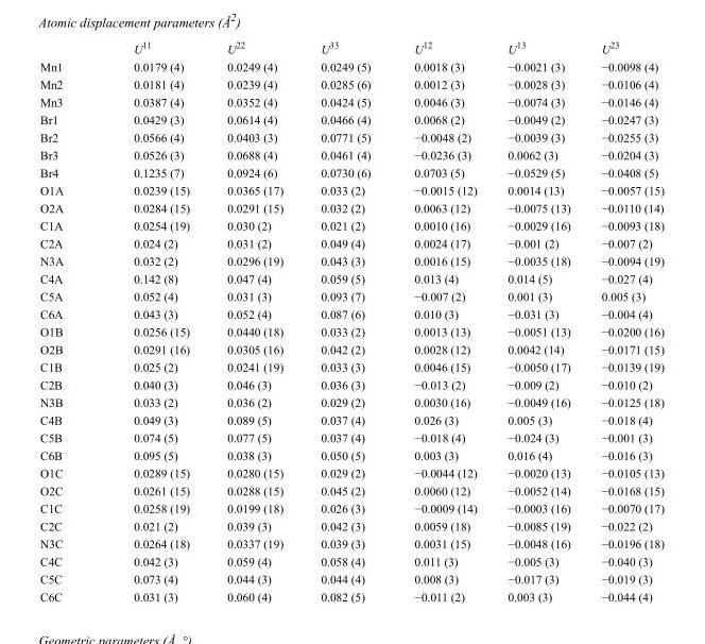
<table><thead><tr><td></td><td>U<sup>11</sup></td><td>U<sup>22</sup></td><td>U<sup>33</sup></td><td>U<sup>12</sup></td><td>U<sup>13</sup></td><td>U<sup>23</sup></td></tr></thead><tbody><tr><td>Mn1</td><td>0.0179 (4)</td><td>0.0249 (4)</td><td>0.0249 (5)</td><td>0.0018 (3)</td><td>−0.0021 (3)</td><td>−0.0098 (4)</td></tr><tr><td>Mn2</td><td>0.0181 (4)</td><td>0.0239 (4)</td><td>0.0285 (6)</td><td>0.0012 (3)</td><td>−0.0028 (3)</td><td>−0.0106 (4)</td></tr><tr><td>Mn3</td><td>0.0387 (4)</td><td>0.0352 (4)</td><td>0.0424 (5)</td><td>0.0046 (3)</td><td>−0.0074 (3)</td><td>−0.0146 (4)</td></tr><tr><td>Br1</td><td>0.0429 (3)</td><td>0.0614 (4)</td><td>0.0466 (4)</td><td>0.0068 (2)</td><td>−0.0049 (2)</td><td>−0.0247 (3)</td></tr><tr><td>Br2</td><td>0.0566 (4)</td><td>0.0403 (3)</td><td>0.0771 (5)</td><td>−0.0048 (2)</td><td>−0.0039 (3)</td><td>−0.0255 (3)</td></tr><tr><td>Br3</td><td>0.0526 (3)</td><td>0.0688 (4)</td><td>0.0461 (4)</td><td>−0.0236 (3)</td><td>0.0062 (3)</td><td>−0.0204 (3)</td></tr><tr><td>Br4</td><td>0.1235 (7)</td><td>0.0924 (6)</td><td>0.0730 (6)</td><td>0.0703 (5)</td><td>−0.0529 (5)</td><td>−0.0408 (5)</td></tr><tr><td>O1A</td><td>0.0239 (15)</td><td>0.0365 (17)</td><td>0.033 (2)</td><td>−0.0015 (12)</td><td>0.0014 (13)</td><td>−0.0057 (15)</td></tr><tr><td>O2A</td><td>0.0284 (15)</td><td>0.0291 (15)</td><td>0.032 (2)</td><td>0.0063 (12)</td><td>−0.0075 (13)</td><td>−0.0110 (14)</td></tr><tr><td>C1A</td><td>0.0254 (19)</td><td>0.030 (2)</td><td>0.021 (2)</td><td>0.0010 (16)</td><td>−0.0029 (16)</td><td>−0.0093 (18)</td></tr><tr><td>C2A</td><td>0.024 (2)</td><td>0.031 (2)</td><td>0.049 (4)</td><td>0.0024 (17)</td><td>−0.001 (2)</td><td>−0.007 (2)</td></tr><tr><td>N3A</td><td>0.032 (2)</td><td>0.0296 (19)</td><td>0.043 (3)</td><td>0.0016 (15)</td><td>−0.0035 (18)</td><td>−0.0094 (19)</td></tr><tr><td>C4A</td><td>0.142 (8)</td><td>0.047 (4)</td><td>0.059 (5)</td><td>0.013 (4)</td><td>0.014 (5)</td><td>−0.027 (4)</td></tr><tr><td>C5A</td><td>0.052 (4)</td><td>0.031 (3)</td><td>0.093 (7)</td><td>−0.007 (2)</td><td>0.001 (3)</td><td>0.005 (3)</td></tr><tr><td>C6A</td><td>0.043 (3)</td><td>0.052 (4)</td><td>0.087 (6)</td><td>0.010 (3)</td><td>−0.031 (3)</td><td>−0.004 (4)</td></tr><tr><td>O1B</td><td>0.0256 (15)</td><td>0.0440 (18)</td><td>0.033 (2)</td><td>0.0013 (13)</td><td>−0.0051 (13)</td><td>−0.0200 (16)</td></tr><tr><td>O2B</td><td>0.0291 (16)</td><td>0.0305 (16)</td><td>0.042 (2)</td><td>0.0028 (12)</td><td>0.0042 (14)</td><td>−0.0171 (15)</td></tr><tr><td>C1B</td><td>0.025 (2)</td><td>0.0241 (19)</td><td>0.033 (3)</td><td>0.0046 (15)</td><td>−0.0050 (17)</td><td>−0.0139 (19)</td></tr><tr><td>C2B</td><td>0.040 (3)</td><td>0.046 (3)</td><td>0.036 (3)</td><td>−0.013 (2)</td><td>−0.009 (2)</td><td>−0.010 (2)</td></tr><tr><td>N3B</td><td>0.033 (2)</td><td>0.036 (2)</td><td>0.029 (2)</td><td>0.0030 (16)</td><td>−0.0049 (16)</td><td>−0.0125 (18)</td></tr><tr><td>C4B</td><td>0.049 (3)</td><td>0.089 (5)</td><td>0.037 (4)</td><td>0.026 (3)</td><td>0.005 (3)</td><td>−0.018 (4)</td></tr><tr><td>C5B</td><td>0.074 (5)</td><td>0.077 (5)</td><td>0.037 (4)</td><td>−0.018 (4)</td><td>−0.024 (3)</td><td>−0.001 (3)</td></tr><tr><td>C6B</td><td>0.095 (5)</td><td>0.038 (3)</td><td>0.050 (5)</td><td>0.003 (3)</td><td>0.016 (4)</td><td>−0.016 (3)</td></tr><tr><td>O1C</td><td>0.0289 (15)</td><td>0.0280 (15)</td><td>0.029 (2)</td><td>−0.0044 (12)</td><td>−0.0020 (13)</td><td>−0.0105 (13)</td></tr><tr><td>O2C</td><td>0.0261 (15)</td><td>0.0288 (15)</td><td>0.045 (2)</td><td>0.0060 (12)</td><td>−0.0052 (14)</td><td>−0.0168 (15)</td></tr><tr><td>C1C</td><td>0.0258 (19)</td><td>0.0199 (18)</td><td>0.026 (3)</td><td>−0.0009 (14)</td><td>−0.0003 (16)</td><td>−0.0070 (17)</td></tr><tr><td>C2C</td><td>0.021 (2)</td><td>0.039 (3)</td><td>0.042 (3)</td><td>0.0059 (18)</td><td>−0.0085 (19)</td><td>−0.022 (2)</td></tr><tr><td>N3C</td><td>0.0264 (18)</td><td>0.0337 (19)</td><td>0.039 (3)</td><td>0.0031 (15)</td><td>−0.0048 (16)</td><td>−0.0196 (18)</td></tr><tr><td>C4C</td><td>0.042 (3)</td><td>0.059 (4)</td><td>0.058 (4)</td><td>0.011 (3)</td><td>−0.005 (3)</td><td>−0.040 (3)</td></tr><tr><td>C5C</td><td>0.073 (4)</td><td>0.044 (3)</td><td>0.044 (4)</td><td>0.008 (3)</td><td>−0.017 (3)</td><td>−0.019 (3)</td></tr><tr><td>C6C</td><td>0.031 (3)</td><td>0.060 (4)</td><td>0.082 (5)</td><td>−0.011 (2)</td><td>0.003 (3)</td><td>−0.044 (4)</td></tr></tbody></table>